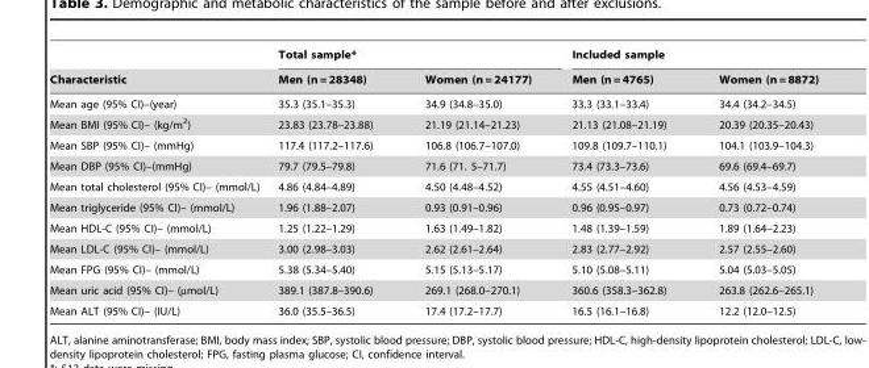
<table><thead><tr><td rowspan="2">Characteristic</td><td colspan="2">Total sample*</td><td colspan="2">Included sample</td></tr><tr><td>Men (n = 28348)</td><td>Women (n = 24177)</td><td>Men (n = 4765)</td><td>Women (n = 8872)</td></tr></thead><tbody><tr><td>Mean age (95% CI)–(year)</td><td>35.3 (35.1–35.3)</td><td>34.9 (34.8–35.0)</td><td>33.3 (33.1–33.4)</td><td>34.4 (34.2–34.5)</td></tr><tr><td>Mean BMI (95% CI)– (kg/m<sup>2</sup>)</td><td>23.83 (23.78–23.88)</td><td>21.19 (21.14–21.23)</td><td>21.13 (21.08–21.19)</td><td>20.39 (20.35–20.43)</td></tr><tr><td>Mean SBP (95% CI)– (mmHg)</td><td>117.4 (117.2–117.6)</td><td>106.8 (106.7–107.0)</td><td>109.8 (109.7–110.1)</td><td>104.1 (103.9–104.3)</td></tr><tr><td>Mean DBP (95% CI)–(mmHg)</td><td>79.7 (79.5–79.8)</td><td>71.6 (71. 5–71.7)</td><td>73.4 (73.3–73.6)</td><td>69.6 (69.4–69.7)</td></tr><tr><td>Mean total cholesterol (95% CI)– (mmol/L)</td><td>4.86 (4.84–4.89)</td><td>4.50 (4.48–4.52)</td><td>4.55 (4.51–4.60)</td><td>4.56 (4.53–4.59)</td></tr><tr><td>Mean triglyceride (95% CI)– (mmol/L)</td><td>1.96 (1.88–2.07)</td><td>0.93 (0.91–0.96)</td><td>0.96 (0.95–0.97)</td><td>0.73 (0.72–0.74)</td></tr><tr><td>Mean HDL-C (95% CI)– (mmol/L)</td><td>1.25 (1.22–1.29)</td><td>1.63 (1.49–1.82)</td><td>1.48 (1.39–1.59)</td><td>1.89 (1.64–2.23)</td></tr><tr><td>Mean LDL-C (95% CI)– (mmol/L)</td><td>3.00 (2.98–3.03)</td><td>2.62 (2.61–2.64)</td><td>2.83 (2.77–2.92)</td><td>2.57 (2.55–2.60)</td></tr><tr><td>Mean FPG (95% CI)– (mmol/L)</td><td>5.38 (5.34–5.40)</td><td>5.15 (5.13–5.17)</td><td>5.10 (5.08–5.11)</td><td>5.04 (5.03–5.05)</td></tr><tr><td>Mean uric acid (95% CI)– (µmol/L)</td><td>389.1 (387.8–390.6)</td><td>269.1 (268.0–270.1)</td><td>360.6 (358.3–362.8)</td><td>263.8 (262.6–265.1)</td></tr><tr><td>Mean ALT (95% CI)– (IU/L)</td><td>36.0 (35.5–36.5)</td><td>17.4 (17.2–17.7)</td><td>16.5 (16.1–16.8)</td><td>12.2 (12.0–12.5)</td></tr></tbody></table>